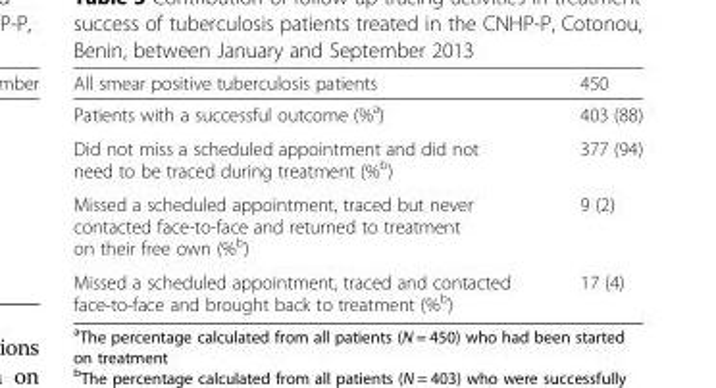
<table><thead><tr><td>All smear positive tuberculosis patients</td><td>450</td></tr></thead><tbody><tr><td>Patients with a successful outcome (%<sup>a</sup>)</td><td>403 (88)</td></tr><tr><td>Did not miss a scheduled appointment and did not need to be traced during treatment (%<sup>b</sup>)</td><td>377 (94)</td></tr><tr><td>Missed a scheduled appointment, traced but never contacted face-to-face and returned to treatment on their free own (%<sup>b</sup>)</td><td>9 (2)</td></tr><tr><td>Missed a scheduled appointment, traced and contacted face-to-face and brought back to treatment (%<sup>b</sup>)</td><td>17 (4)</td></tr></tbody></table>